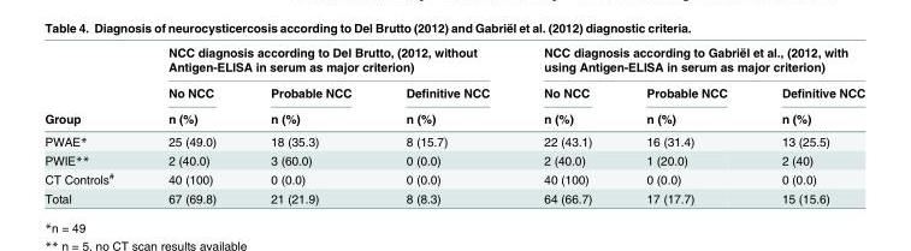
<table><thead><tr><td rowspan="3">Group</td><td colspan="3">NCC diagnosis according to Del Brutto, (2012, without Antigen-ELISA in serum as major criterion)</td><td colspan="3">NCC diagnosis according to Gabriël et al., (2012, with using Antigen-ELISA in serum as major criterion)</td></tr><tr><td rowspan="2">No NCC n (%)</td><td rowspan="2">Probable NCC n (%)</td><td rowspan="2">Definitive NCC n (%)</td><td rowspan="2">No NCC n (%)</td><td rowspan="2">Probable NCC n (%)</td><td rowspan="2">Definitive NCC n (%)</td></tr><tr></tr></thead><tbody><tr><td>PWAE*</td><td>25 (49.0)</td><td>18 (35.3)</td><td>8 (15.7)</td><td>22 (43.1)</td><td>16 (31.4)</td><td>13 (25.5)</td></tr><tr><td>PWIE**</td><td>2 (40.0)</td><td>3 (60.0)</td><td>0 (0.0)</td><td>2 (40.0)</td><td>1 (20.0)</td><td>2 (40)</td></tr><tr><td>CT Controls<sup>#</sup></td><td>40 (100)</td><td>0 (0.0)</td><td>0 (0.0)</td><td>40 (100)</td><td>0 (0.0)</td><td>0 (0.0)</td></tr><tr><td>Total</td><td>67 (69.8)</td><td>21 (21.9)</td><td>8 (8.3)</td><td>64 (66.7)</td><td>17 (17.7)</td><td>15 (15.6)</td></tr></tbody></table>